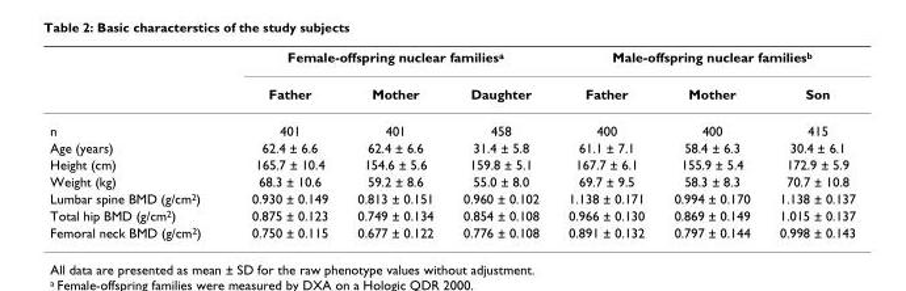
<table><thead><tr><td rowspan="2"></td><td colspan="3">Female-offspring nuclear families<sup>a</sup></td><td colspan="3">Male-offspring nuclear families<sup>b</sup></td></tr><tr><td>Father</td><td>Mother</td><td>Daughter</td><td>Father</td><td>Mother</td><td>Son</td></tr></thead><tbody><tr><td>n</td><td>401</td><td>401</td><td>458</td><td>400</td><td>400</td><td>415</td></tr><tr><td>Age (years)</td><td>62.4 ± 6.6</td><td>62.4 ± 6.6</td><td>31.4 ± 5.8</td><td>61.1 ± 7.1</td><td>58.4 ± 6.3</td><td>30.4 ± 6.1</td></tr><tr><td>Height (cm)</td><td>165.7 ± 10.4</td><td>154.6 ± 5.6</td><td>159.8 ± 5.1</td><td>167.7 ± 6.1</td><td>155.9 ± 5.4</td><td>172.9 ± 5.9</td></tr><tr><td>Weight (kg)</td><td>68.3 ± 10.6</td><td>59.2 ± 8.6</td><td>55.0 ± 8.0</td><td>69.7 ± 9.5</td><td>58.3 ± 8.3</td><td>70.7 ± 10.8</td></tr><tr><td>Lumbar spine BMD (g/cm<sup>2</sup>)</td><td>0.930 ± 0.149</td><td>0.813 ± 0.151</td><td>0.960 ± 0.102</td><td>1.138 ± 0.171</td><td>0.994 ± 0.170</td><td>1.138 ± 0.137</td></tr><tr><td>Total hip BMD (g/cm<sup>2</sup>)</td><td>0.875 ± 0.123</td><td>0.749 ± 0.134</td><td>0.854 ± 0.108</td><td>0.966 ± 0.130</td><td>0.869 ± 0.149</td><td>1.015 ± 0.137</td></tr><tr><td>Femoral neck BMD (g/cm<sup>2</sup>)</td><td>0.750 ± 0.115</td><td>0.677 ± 0.122</td><td>0.776 ± 0.108</td><td>0.891 ± 0.132</td><td>0.797 ± 0.144</td><td>0.998 ± 0.143</td></tr></tbody></table>